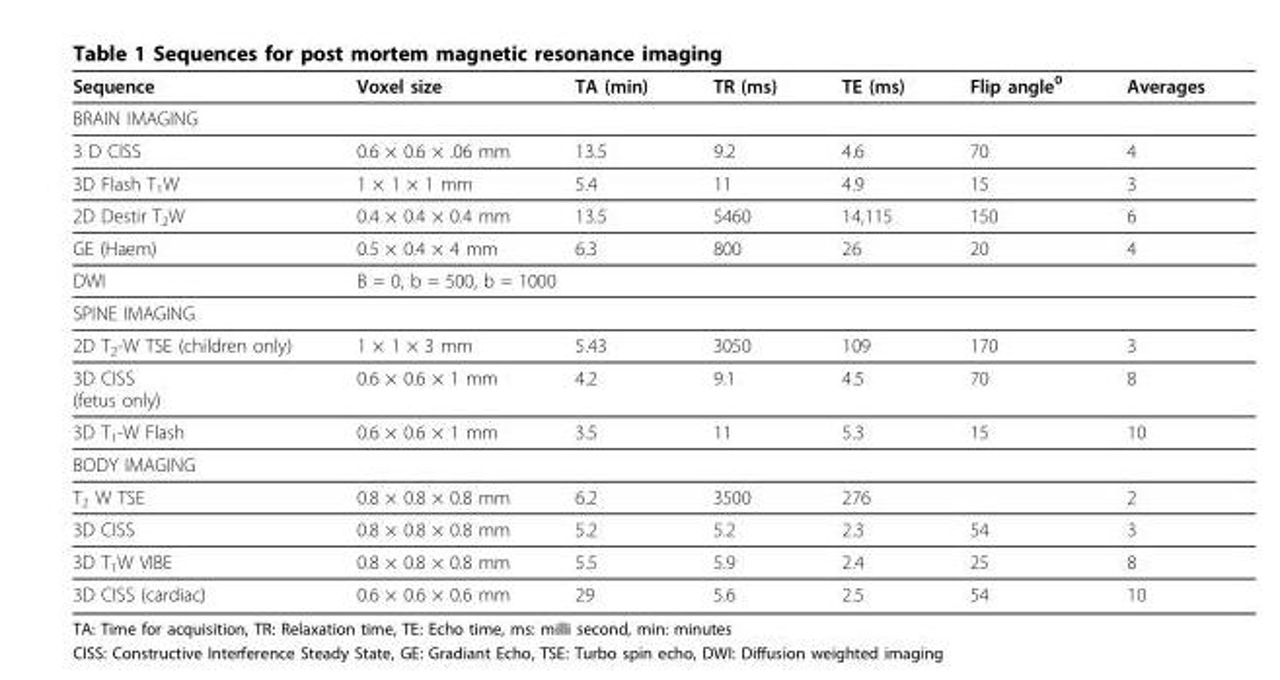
<table><thead><tr><td>Sequence</td><td>Voxel size</td><td>TA (min)</td><td>TR (ms)</td><td>TE (ms)</td><td>Flip angle<sup>0</sup></td><td>Averages</td></tr></thead><tbody><tr><td colspan="7">BRAIN IMAGING</td></tr><tr><td>3 D CISS</td><td>0.6 × 0.6 × .06 mm</td><td>13.5</td><td>9.2</td><td>4.6</td><td>70</td><td>4</td></tr><tr><td>3D Flash T<sub>1</sub>W</td><td>1 × 1 × 1 mm</td><td>5.4</td><td>11</td><td>4.9</td><td>15</td><td>3</td></tr><tr><td>2D Destir T<sub>2</sub>W</td><td>0.4 × 0.4 × 0.4 mm</td><td>13.5</td><td>5460</td><td>14,115</td><td>150</td><td>6</td></tr><tr><td>GE (Haem)</td><td>0.5 × 0.4 × 4 mm</td><td>6.3</td><td>800</td><td>26</td><td>20</td><td>4</td></tr><tr><td>DWI</td><td colspan="6">B = 0, b = 500, b = 1000</td></tr><tr><td colspan="7">SPINE IMAGING</td></tr><tr><td>2D T<sub>2</sub>-W TSE (children only)</td><td>1 × 1 × 3 mm</td><td>5.43</td><td>3050</td><td>109</td><td>170</td><td>3</td></tr><tr><td>3D CISS (fetus only)</td><td>0.6 × 0.6 × 1 mm</td><td>4.2</td><td>9.1</td><td>4.5</td><td>70</td><td>8</td></tr><tr><td>3D T<sub>1</sub>-W Flash</td><td>0.6 × 0.6 × 1 mm</td><td>3.5</td><td>11</td><td>5.3</td><td>15</td><td>10</td></tr><tr><td colspan="7">BODY IMAGING</td></tr><tr><td>T<sub>2</sub> W TSE</td><td>0.8 × 0.8 × 0.8 mm</td><td>6.2</td><td>3500</td><td>276</td><td></td><td>2</td></tr><tr><td>3D CISS</td><td>0.8 × 0.8 × 0.8 mm</td><td>5.2</td><td>5.2</td><td>2.3</td><td>54</td><td>3</td></tr><tr><td>3D T<sub>1</sub>W VIBE</td><td>0.8 × 0.8 × 0.8 mm</td><td>5.5</td><td>5.9</td><td>2.4</td><td>25</td><td>8</td></tr><tr><td>3D CISS (cardiac)</td><td>0.6 × 0.6 × 0.6 mm</td><td>29</td><td>5.6</td><td>2.5</td><td>54</td><td>10</td></tr></tbody></table>